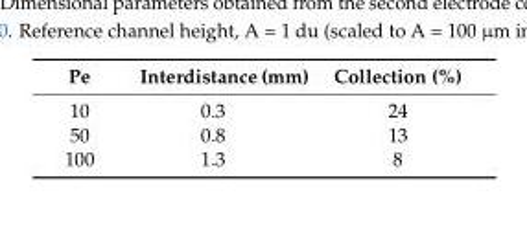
<table><thead><tr><td>Pe</td><td>Interdistance (mm)</td><td>Collection (%)</td></tr></thead><tbody><tr><td>10</td><td>0.3</td><td>24</td></tr><tr><td>50</td><td>0.8</td><td>13</td></tr><tr><td>100</td><td>1.3</td><td>8</td></tr></tbody></table>